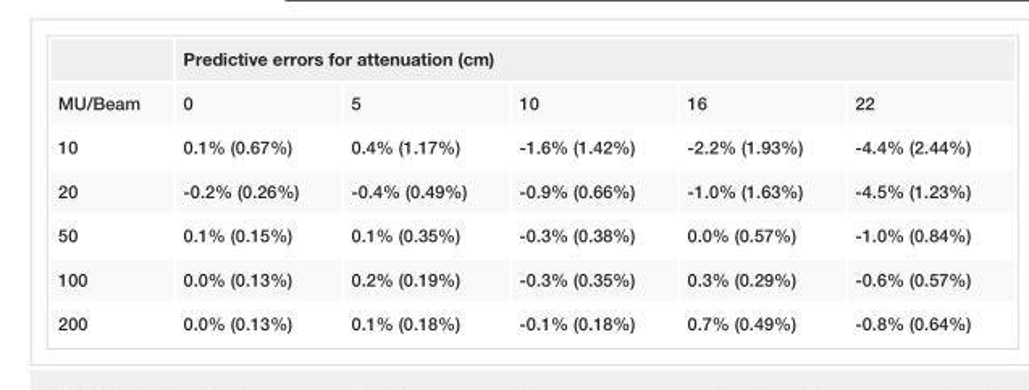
<table><thead><tr><td rowspan="2">MU/Beam</td><td colspan="5">Predictive errors for attenuation (cm)</td></tr><tr><td>0</td><td>5</td><td>10</td><td>16</td><td>22</td></tr></thead><tbody><tr><td>10</td><td>0.1% (0.67%)</td><td>0.4% (1.17%)</td><td>-1.6% (1.42%)</td><td>-2.2% (1.93%)</td><td>-4.4% (2.44%)</td></tr><tr><td>20</td><td>-0.2% (0.26%)</td><td>-0.4% (0.49%)</td><td>-0.9% (0.66%)</td><td>-1.0% (1.63%)</td><td>-4.5% (1.23%)</td></tr><tr><td>50</td><td>0.1% (0.15%)</td><td>0.1% (0.35%)</td><td>-0.3% (0.38%)</td><td>0.0% (0.57%)</td><td>-1.0% (0.84%)</td></tr><tr><td>100</td><td>0.0% (0.13%)</td><td>0.2% (0.19%)</td><td>-0.3% (0.35%)</td><td>0.3% (0.29%)</td><td>-0.6% (0.57%)</td></tr><tr><td>200</td><td>0.0% (0.13%)</td><td>0.1% (0.18%)</td><td>-0.1% (0.18%)</td><td>0.7% (0.49%)</td><td>-0.8% (0.64%)</td></tr></tbody></table>